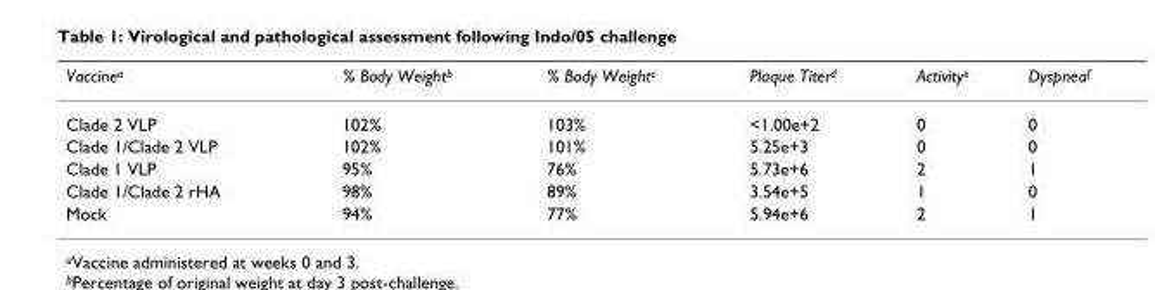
<table><thead><tr><td>Vaccine<sup>a</sup></td><td>% Body Weight<sup>b</sup></td><td>% Body Weight<sup>c</sup></td><td>Plaque Titer<sup>d</sup></td><td>Activity<sup>e</sup></td><td>Dyspnea<sup>f</sup></td></tr></thead><tbody><tr><td>Clade 2 VLP</td><td>102%</td><td>103%</td><td>&lt;1.00e+2</td><td>0</td><td>0</td></tr><tr><td>Clade 1/Clade 2 VLP</td><td>102%</td><td>101%</td><td>5.25e+3</td><td>0</td><td>0</td></tr><tr><td>Clade 1 VLP</td><td>95%</td><td>76%</td><td>5.73e+6</td><td>2</td><td>1</td></tr><tr><td>Clade 1/Clade 2 rHA</td><td>98%</td><td>89%</td><td>3.54e+5</td><td>1</td><td>0</td></tr><tr><td>Mock</td><td>94%</td><td>77%</td><td>5.94e+6</td><td>2</td><td>1</td></tr></tbody></table>